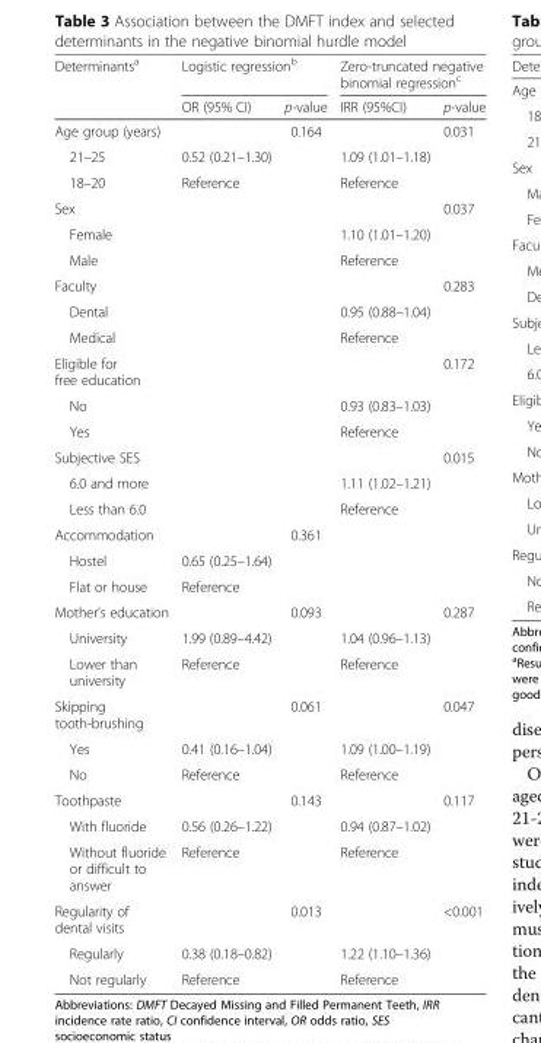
<table><thead><tr><td rowspan="2">Determinants<sup>a</sup></td><td colspan="2">Logistic regression<sup>b</sup></td><td colspan="2">Zero-truncated negative binomial regression<sup>c</sup></td></tr><tr><td>OR (95% CI)</td><td>p-value</td><td>IRR (95%CI)</td><td>p-value</td></tr></thead><tbody><tr><td>Age group (years)</td><td></td><td>0.164</td><td></td><td>0.031</td></tr><tr><td>21–25</td><td>0.52 (0.21–1.30)</td><td></td><td>1.09 (1.01–1.18)</td><td></td></tr><tr><td>18–20</td><td>Reference</td><td></td><td>Reference</td><td></td></tr><tr><td>Sex</td><td></td><td></td><td></td><td>0.037</td></tr><tr><td>Female</td><td></td><td></td><td>1.10 (1.01–1.20)</td><td></td></tr><tr><td>Male</td><td></td><td></td><td>Reference</td><td></td></tr><tr><td>Faculty</td><td></td><td></td><td></td><td>0.283</td></tr><tr><td>Dental</td><td></td><td></td><td>0.95 (0.88–1.04)</td><td></td></tr><tr><td>Medical</td><td></td><td></td><td>Reference</td><td></td></tr><tr><td>Eligible for free education</td><td></td><td></td><td></td><td>0.172</td></tr><tr><td>No</td><td></td><td></td><td>0.93 (0.83–1.03)</td><td></td></tr><tr><td>Yes</td><td></td><td></td><td>Reference</td><td></td></tr><tr><td>Subjective SES</td><td></td><td></td><td></td><td>0.015</td></tr><tr><td>6.0 and more</td><td></td><td></td><td>1.11 (1.02–1.21)</td><td></td></tr><tr><td>Less than 6.0</td><td></td><td></td><td>Reference</td><td></td></tr><tr><td>Accommodation</td><td></td><td>0.361</td><td></td><td></td></tr><tr><td>Hostel</td><td>0.65 (0.25–1.64)</td><td></td><td></td><td></td></tr><tr><td>Flat or house</td><td>Reference</td><td></td><td></td><td></td></tr><tr><td>Mother’s education</td><td></td><td>0.093</td><td></td><td>0.287</td></tr><tr><td>University</td><td>1.99 (0.89–4.42)</td><td></td><td>1.04 (0.96–1.13)</td><td></td></tr><tr><td>Lower than university</td><td>Reference</td><td></td><td>Reference</td><td></td></tr><tr><td>Skipping tooth-brushing</td><td></td><td>0.061</td><td></td><td>0.047</td></tr><tr><td>Yes</td><td>0.41 (0.16–1.04)</td><td></td><td>1.09 (1.00–1.19)</td><td></td></tr><tr><td>No</td><td>Reference</td><td></td><td>Reference</td><td></td></tr><tr><td>Toothpaste</td><td></td><td>0.143</td><td></td><td>0.117</td></tr><tr><td>With fluoride</td><td>0.56 (0.26–1.22)</td><td></td><td>0.94 (0.87–1.02)</td><td></td></tr><tr><td>Without fluoride or difficult to answer</td><td>Reference</td><td></td><td>Reference</td><td></td></tr><tr><td>Regularity of dental visits</td><td></td><td>0.013</td><td></td><td>&lt;0.001</td></tr><tr><td>Regularly</td><td>0.38 (0.18–0.82)</td><td></td><td>1.22 (1.10–1.36)</td><td></td></tr><tr><td>Not regularly</td><td>Reference</td><td></td><td>Reference</td><td></td></tr></tbody></table>